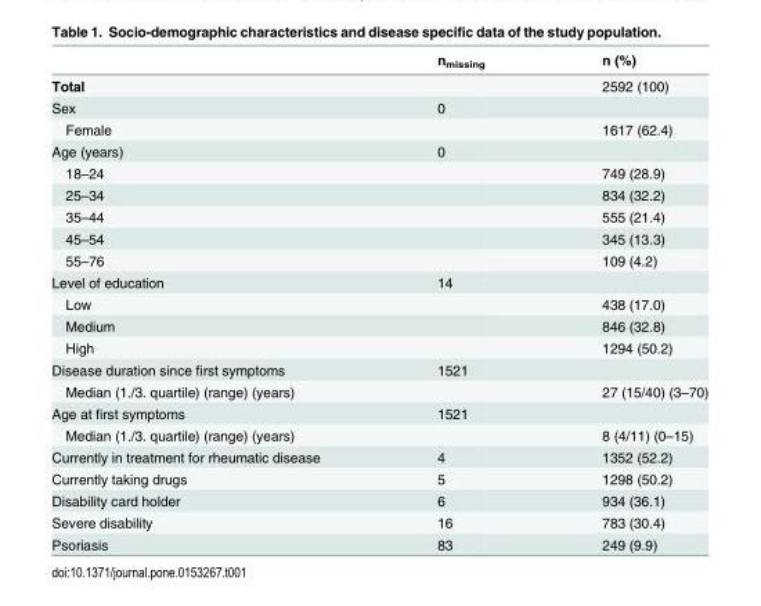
<table><thead><tr><td></td><td>n<sub>missing</sub></td><td>n (%)</td></tr></thead><tbody><tr><td>Total</td><td></td><td>2592 (100)</td></tr><tr><td>Sex</td><td>0</td><td></td></tr><tr><td>Female</td><td></td><td>1617 (62.4)</td></tr><tr><td>Age (years)</td><td>0</td><td></td></tr><tr><td>18–24</td><td></td><td>749 (28.9)</td></tr><tr><td>25–34</td><td></td><td>834 (32.2)</td></tr><tr><td>35–44</td><td></td><td>555 (21.4)</td></tr><tr><td>45–54</td><td></td><td>345 (13.3)</td></tr><tr><td>55–76</td><td></td><td>109 (4.2)</td></tr><tr><td>Level of education</td><td>14</td><td></td></tr><tr><td>Low</td><td></td><td>438 (17.0)</td></tr><tr><td>Medium</td><td></td><td>846 (32.8)</td></tr><tr><td>High</td><td></td><td>1294 (50.2)</td></tr><tr><td>Disease duration since first symptoms</td><td>1521</td><td></td></tr><tr><td>Median (1./3. quartile) (range) (years)</td><td></td><td>27 (15/40) (3–70)</td></tr><tr><td>Age at first symptoms</td><td>1521</td><td></td></tr><tr><td>Median (1./3. quartile) (range) (years)</td><td></td><td>8 (4/11) (0–15)</td></tr><tr><td>Currently in treatment for rheumatic disease</td><td>4</td><td>1352 (52.2)</td></tr><tr><td>Currently taking drugs</td><td>5</td><td>1298 (50.2)</td></tr><tr><td>Disability card holder</td><td>6</td><td>934 (36.1)</td></tr><tr><td>Severe disability</td><td>16</td><td>783 (30.4)</td></tr><tr><td>Psoriasis</td><td>83</td><td>249 (9.9)</td></tr></tbody></table>